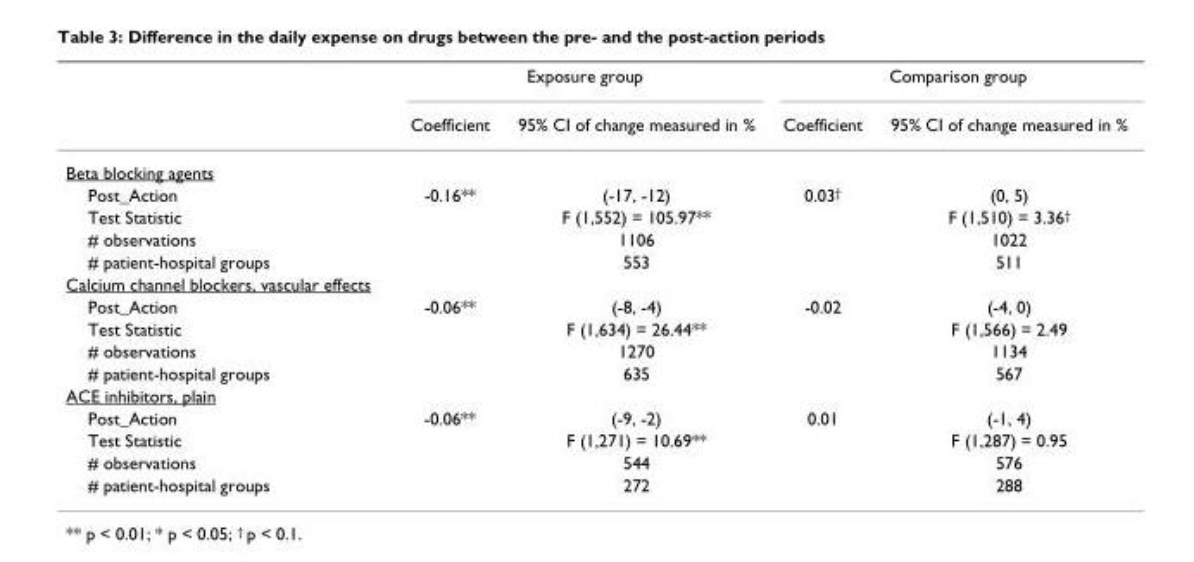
<table><thead><tr><td rowspan="2"></td><td colspan="2">Exposure group</td><td colspan="2">Comparison group</td></tr><tr><td>Coefficient</td><td>95% CI of change measured in %</td><td>Coefficient</td><td>95% CI of change measured in %</td></tr></thead><tbody><tr><td colspan="5">Beta blocking agents</td></tr><tr><td>Post_Action</td><td>-0.16**</td><td>(-17, -12)</td><td>0.03<sup>†</sup></td><td>(0, 5)</td></tr><tr><td>Test Statistic</td><td></td><td>F (1,552) = 105.97**</td><td></td><td>F (1,510) = 3.36<sup>†</sup></td></tr><tr><td># observations</td><td></td><td>1106</td><td></td><td>1022</td></tr><tr><td># patient-hospital groups</td><td></td><td>553</td><td></td><td>511</td></tr><tr><td colspan="5">Calcium channel blockers, vascular effects</td></tr><tr><td>Post_Action</td><td>-0.06**</td><td>(-8, -4)</td><td>-0.02</td><td>(-4, 0)</td></tr><tr><td>Test Statistic</td><td></td><td>F (1,634) = 26.44**</td><td></td><td>F (1,566) = 2.49</td></tr><tr><td># observations</td><td></td><td>1270</td><td></td><td>1134</td></tr><tr><td># patient-hospital groups</td><td></td><td>635</td><td></td><td>567</td></tr><tr><td colspan="5">ACE inhibitors, plain</td></tr><tr><td>Post_Action</td><td>-0.06**</td><td>(-9, -2)</td><td>0.01</td><td>(-1, 4)</td></tr><tr><td>Test Statistic</td><td></td><td>F (1,271) = 10.69**</td><td></td><td>F (1,287) = 0.95</td></tr><tr><td># observations</td><td></td><td>544</td><td></td><td>576</td></tr><tr><td># patient-hospital groups</td><td></td><td>272</td><td></td><td>288</td></tr></tbody></table>